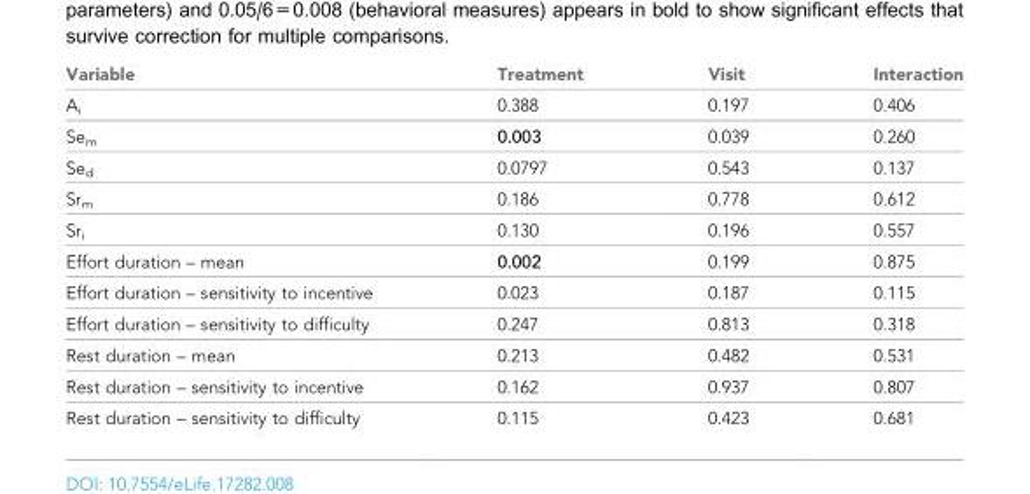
<table><thead><tr><td>Variable</td><td>Treatment</td><td>Visit</td><td>Interaction</td></tr></thead><tbody><tr><td>A<sub>i</sub></td><td>0.388</td><td>0.197</td><td>0.406</td></tr><tr><td>Se<sub>m</sub></td><td>0.003</td><td>0.039</td><td>0.260</td></tr><tr><td>Se<sub>d</sub></td><td>0.0797</td><td>0.543</td><td>0.137</td></tr><tr><td>Sr<sub>m</sub></td><td>0.186</td><td>0.778</td><td>0.612</td></tr><tr><td>Sr<sub>i</sub></td><td>0.130</td><td>0.196</td><td>0.557</td></tr><tr><td>Effort duration – mean</td><td>0.002</td><td>0.199</td><td>0.875</td></tr><tr><td>Effort duration – sensitivity to incentive</td><td>0.023</td><td>0.187</td><td>0.115</td></tr><tr><td>Effort duration – sensitivity to difficulty</td><td>0.247</td><td>0.813</td><td>0.318</td></tr><tr><td>Rest duration – mean</td><td>0.213</td><td>0.482</td><td>0.531</td></tr><tr><td>Rest duration – sensitivity to incentive</td><td>0.162</td><td>0.937</td><td>0.807</td></tr><tr><td>Rest duration – sensitivity to difficulty</td><td>0.115</td><td>0.423</td><td>0.681</td></tr></tbody></table>